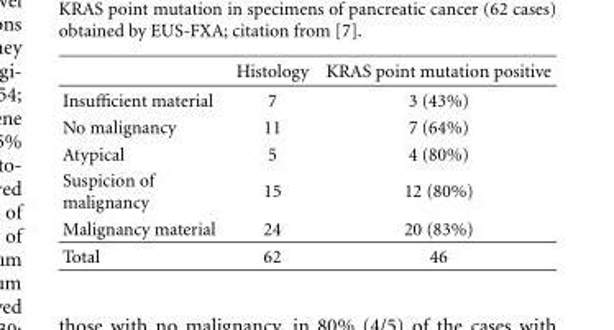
<table><thead><tr><td></td><td>Histology</td><td>KRAS point mutation positive</td></tr></thead><tbody><tr><td>Insufficient material</td><td>7</td><td>3 (43%)</td></tr><tr><td>No malignancy</td><td>11</td><td>7 (64%)</td></tr><tr><td>Atypical</td><td>5</td><td>4 (80%)</td></tr><tr><td>Suspicion of malignancy</td><td>15</td><td>12 (80%)</td></tr><tr><td>Malignancy material</td><td>24</td><td>20 (83%)</td></tr><tr><td>Total</td><td>62</td><td>46</td></tr></tbody></table>